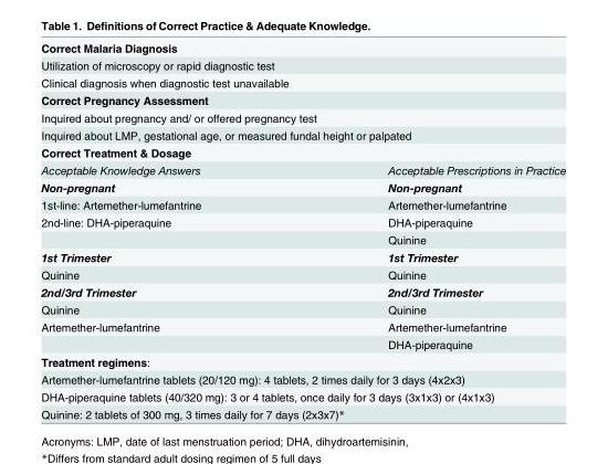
<table><tbody><tr><td colspan="2">Correct Malaria Diagnosis</td></tr><tr><td colspan="2">Utilization of microscopy or rapid diagnostic test</td></tr><tr><td colspan="2">Clinical diagnosis when diagnostic test unavailable</td></tr><tr><td colspan="2">Correct Pregnancy Assessment</td></tr><tr><td colspan="2">Inquired about pregnancy and/ or offered pregnancy test</td></tr><tr><td colspan="2">Inquired about LMP, gestational age, or measured fundal height or palpated</td></tr><tr><td colspan="2">Correct Treatment &amp; Dosage</td></tr><tr><td>Acceptable Knowledge Answers</td><td>Acceptable Prescriptions in Practice</td></tr><tr><td>Non-pregnant</td><td>Non-pregnant</td></tr><tr><td>1st-line: Artemether-lumefantrine</td><td>Artemether-lumefantrine</td></tr><tr><td rowspan="2">2nd-line: DHA-piperaquine</td><td>DHA-piperaquine</td></tr><tr><td>Quinine</td></tr><tr><td>1st Trimester</td><td>1st Trimester</td></tr><tr><td>Quinine</td><td>Quinine</td></tr><tr><td>2nd/3rd Trimester</td><td>2nd/3rd Trimester</td></tr><tr><td>Quinine</td><td>Quinine</td></tr><tr><td rowspan="2">Artemether-lumefantrine</td><td>Artemether-lumefantrine</td></tr><tr><td>DHA-piperaquine</td></tr><tr><td colspan="2">Treatment regimens:</td></tr><tr><td colspan="2">Artemether-lumefantrine tablets (20/120 mg): 4 tablets, 2 times daily for 3 days (4x2x3)</td></tr><tr><td colspan="2">DHA-piperaquine tablets (40/320 mg): 3 or 4 tablets, once daily for 3 days (3x1x3) or (4x1x3)</td></tr><tr><td colspan="2">Quinine: 2 tablets of 300 mg, 3 times daily for 7 days (2x3x7)*</td></tr></tbody></table>